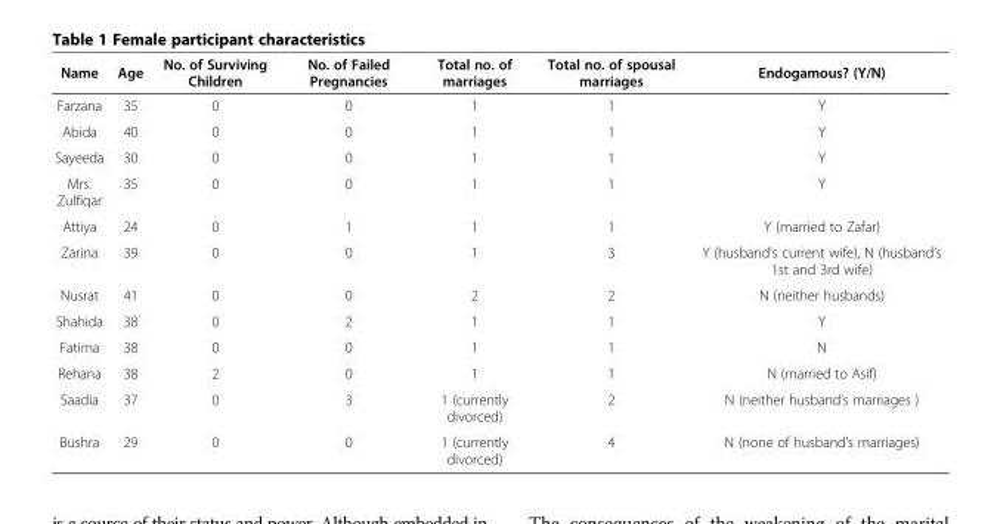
<table><thead><tr><td>Name</td><td>Age</td><td>No. of Surviving Children</td><td>No. of Failed Pregnancies</td><td>Total no. of marriages</td><td>Total no. of spousal marriages</td><td>Endogamous? (Y/N)</td></tr></thead><tbody><tr><td>Farzana</td><td>35</td><td>0</td><td>0</td><td>1</td><td>1</td><td>Y</td></tr><tr><td>Abida</td><td>40</td><td>0</td><td>0</td><td>1</td><td>1</td><td>Y</td></tr><tr><td>Sayeeda</td><td>30</td><td>0</td><td>0</td><td>1</td><td>1</td><td>Y</td></tr><tr><td>Mrs. Zulfiqar</td><td>35</td><td>0</td><td>0</td><td>1</td><td>1</td><td>Y</td></tr><tr><td>Attiya</td><td>24</td><td>0</td><td>1</td><td>1</td><td>1</td><td>Y (married to Zafar)</td></tr><tr><td>Zarina</td><td>39</td><td>0</td><td>0</td><td>1</td><td>3</td><td>Y (husband’s current wife), N (husband’s 1st and 3rd wife)</td></tr><tr><td>Nusrat</td><td>41</td><td>0</td><td>0</td><td>2</td><td>2</td><td>N (neither husbands)</td></tr><tr><td>Shahida</td><td>38</td><td>0</td><td>2</td><td>1</td><td>1</td><td>Y</td></tr><tr><td>Fatima</td><td>38</td><td>0</td><td>0</td><td>1</td><td>1</td><td>N</td></tr><tr><td>Rehana</td><td>38</td><td>2</td><td>0</td><td>1</td><td>1</td><td>N (married to Asif)</td></tr><tr><td>Saadia</td><td>37</td><td>0</td><td>3</td><td>1 (currently divorced)</td><td>2</td><td>N (neither husband’s marriages )</td></tr><tr><td>Bushra</td><td>29</td><td>0</td><td>0</td><td>1 (currently divorced)</td><td>4</td><td>N (none of husband’s marriages)</td></tr></tbody></table>